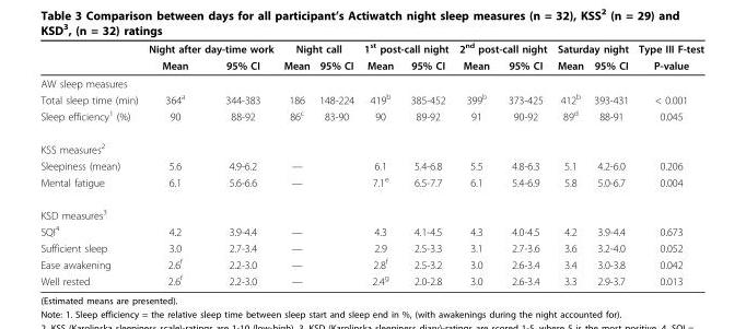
<table><thead><tr><td rowspan="2"></td><td colspan="2">Night after day-time work</td><td colspan="2">Night call</td><td colspan="2">1<sup>st</sup> post-call night</td><td colspan="2">2<sup>nd</sup> post-call night</td><td colspan="2">Saturday night</td><td rowspan="2">Type III F-test P-value</td></tr><tr><td>Mean</td><td>95% CI</td><td>Mean</td><td>95% CI</td><td>Mean</td><td>95% CI</td><td>Mean</td><td>95% CI</td><td>Mean</td><td>95% CI</td></tr></thead><tbody><tr><td colspan="12">AW sleep measures</td></tr><tr><td>Total sleep time (min)</td><td>364<sup>a</sup></td><td>344-383</td><td>186</td><td>148-224</td><td>419<sup>b</sup></td><td>385-452</td><td>399<sup>b</sup></td><td>373-425</td><td>412<sup>b</sup></td><td>393-431</td><td>&lt; 0.001</td></tr><tr><td>Sleep efficiency<sup>1</sup> (%)</td><td>90</td><td>88-92</td><td>86<sup>c</sup></td><td>83-90</td><td>90</td><td>89-92</td><td>91</td><td>90-92</td><td>89<sup>d</sup></td><td>88-91</td><td>0.045</td></tr><tr><td colspan="12">KSS measures<sup>2</sup></td></tr><tr><td>Sleepiness (mean)</td><td>5.6</td><td>4.9-6.2</td><td>—</td><td></td><td>6.1</td><td>5.4-6.8</td><td>5.5</td><td>4.8-6.3</td><td>5.1</td><td>4.2-6.0</td><td>0.206</td></tr><tr><td>Mental fatigue</td><td>6.1</td><td>5.6-6.6</td><td>—</td><td></td><td>7.1<sup>e</sup></td><td>6.5-7.7</td><td>6.1</td><td>5.4-6.9</td><td>5.8</td><td>5.0-6.7</td><td>0.004</td></tr><tr><td colspan="12">KSD measures<sup>3</sup></td></tr><tr><td>SQI<sup>4</sup></td><td>4.2</td><td>3.9-4.4</td><td>—</td><td></td><td>4.3</td><td>4.1-4.5</td><td>4.3</td><td>4.0-4.5</td><td>4.2</td><td>3.9-4.4</td><td>0.673</td></tr><tr><td>Sufficient sleep</td><td>3.0</td><td>2.7-3.4</td><td>—</td><td></td><td>2.9</td><td>2.5-3.3</td><td>3.1</td><td>2.7-3.6</td><td>3.6</td><td>3.2-4.0</td><td>0.052</td></tr><tr><td>Ease awakening</td><td>2.6<sup>f</sup></td><td>2.2-3.0</td><td>—</td><td></td><td>2.8<sup>f</sup></td><td>2.5-3.2</td><td>3.0</td><td>2.6-3.4</td><td>3.4</td><td>3.0-3.8</td><td>0.042</td></tr><tr><td>Well rested</td><td>2.6<sup>f</sup></td><td>2.2-3.0</td><td>—</td><td></td><td>2.4<sup>g</sup></td><td>2.0-2.8</td><td>3.0</td><td>2.6-3.4</td><td>3.3</td><td>2.9-3.7</td><td>0.013</td></tr></tbody></table>